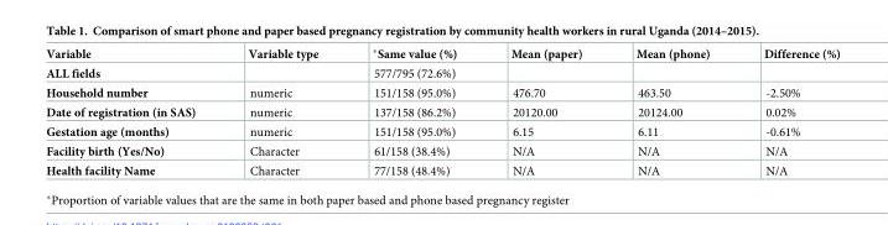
<table><thead><tr><td>Variable</td><td>Variable type</td><td>*Same value (%)</td><td>Mean (paper)</td><td>Mean (phone)</td><td>Difference (%)</td></tr></thead><tbody><tr><td>ALL fields</td><td></td><td>577/795 (72.6%)</td><td></td><td></td><td></td></tr><tr><td>Household number</td><td>numeric</td><td>151/158 (95.0%)</td><td>476.70</td><td>463.50</td><td>-2.50%</td></tr><tr><td>Date of registration (in SAS)</td><td>numeric</td><td>137/158 (86.2%)</td><td>20120.00</td><td>20124.00</td><td>0.02%</td></tr><tr><td>Gestation age (months)</td><td>numeric</td><td>151/158 (95.0%)</td><td>6.15</td><td>6.11</td><td>-0.61%</td></tr><tr><td>Facility birth (Yes/No)</td><td>Character</td><td>61/158 (38.4%)</td><td>N/A</td><td>N/A</td><td>N/A</td></tr><tr><td>Health facility Name</td><td>Character</td><td>77/158 (48.4%)</td><td>N/A</td><td>N/A</td><td>N/A</td></tr></tbody></table>